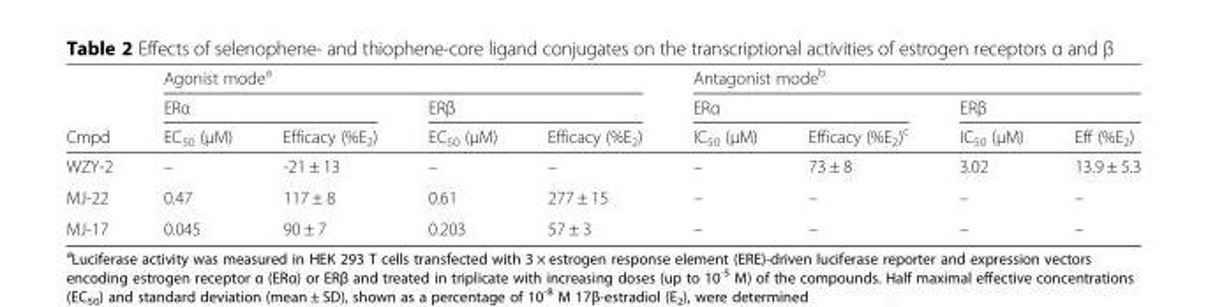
<table><thead><tr><td rowspan="3">Cmpd</td><td colspan="4">Agonist mode<sup>a</sup></td><td colspan="4">Antagonist mode<sup>b</sup></td></tr><tr><td colspan="2">ERα</td><td colspan="2">ERβ</td><td colspan="2">ERα</td><td colspan="2">ERβ</td></tr><tr><td>EC<sub>50</sub> (μM)</td><td>Efficacy (%E<sub>2</sub>)</td><td>EC<sub>50</sub> (μM)</td><td>Efficacy (%E<sub>2</sub>)</td><td>IC<sub>50</sub> (μM)</td><td>Efficacy (%E<sub>2</sub>)<sup>c</sup></td><td>IC<sub>50</sub> (μM)</td><td>Eff (%E<sub>2</sub>)</td></tr></thead><tbody><tr><td>WZY-2</td><td>–</td><td>-21 ± 13</td><td>–</td><td>–</td><td>–</td><td>73 ± 8</td><td>3.02</td><td>13.9 ± 5.3</td></tr><tr><td>MJ-22</td><td>0.47</td><td>117 ± 8</td><td>0.61</td><td>277 ± 15</td><td>–</td><td>–</td><td>–</td><td>–</td></tr><tr><td>MJ-17</td><td>0.045</td><td>90 ± 7</td><td>0.203</td><td>57 ± 3</td><td>–</td><td>–</td><td>–</td><td>–</td></tr></tbody></table>